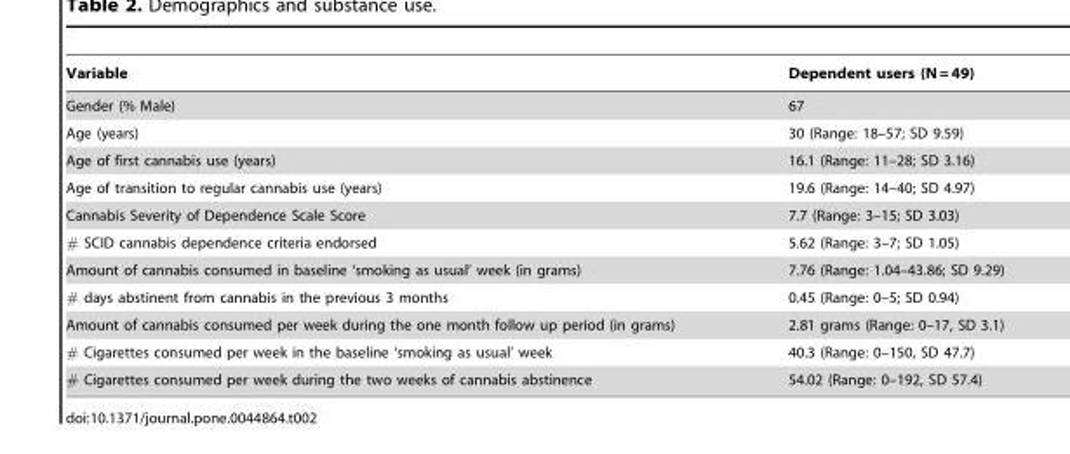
<table><thead><tr><td>Variable</td><td>Dependent users (N = 49)</td></tr></thead><tbody><tr><td>Gender (% Male)</td><td>67</td></tr><tr><td>Age (years)</td><td>30 (Range: 18–57; SD 9.59)</td></tr><tr><td>Age of first cannabis use (years)</td><td>16.1 (Range: 11–28; SD 3.16)</td></tr><tr><td>Age of transition to regular cannabis use (years)</td><td>19.6 (Range: 14–40; SD 4.97)</td></tr><tr><td>Cannabis Severity of Dependence Scale Score</td><td>7.7 (Range: 3–15; SD 3.03)</td></tr><tr><td># SCID cannabis dependence criteria endorsed</td><td>5.62 (Range: 3–7; SD 1.05)</td></tr><tr><td>Amount of cannabis consumed in baseline ‘smoking as usual’ week (in grams)</td><td>7.76 (Range: 1.04–43.86; SD 9.29)</td></tr><tr><td># days abstinent from cannabis in the previous 3 months</td><td>0.45 (Range: 0–5; SD 0.94)</td></tr><tr><td>Amount of cannabis consumed per week during the one month follow up period (in grams)</td><td>2.81 grams (Range: 0–17, SD 3.1)</td></tr><tr><td># Cigarettes consumed per week in the baseline ‘smoking as usual’ week</td><td>40.3 (Range: 0–150, SD 47.7)</td></tr><tr><td># Cigarettes consumed per week during the two weeks of cannabis abstinence</td><td>54.02 (Range: 0–192, SD 57.4)</td></tr></tbody></table>